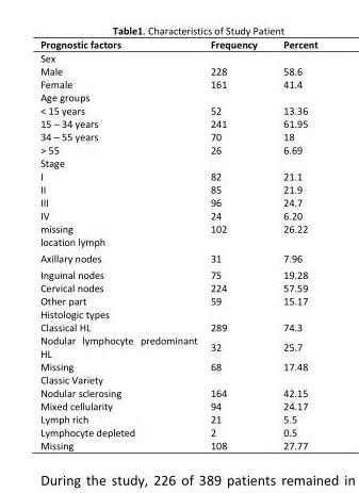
<table><thead><tr><td>Prognostic factors</td><td>Frequency</td><td>Percent</td></tr></thead><tbody><tr><td colspan="3">Sex</td></tr><tr><td>Male</td><td>228</td><td>58.6</td></tr><tr><td>Female</td><td>161</td><td>41.4</td></tr><tr><td colspan="3">Age groups</td></tr><tr><td>&lt; 15 years</td><td>52</td><td>13.36</td></tr><tr><td>15 – 34 years</td><td>241</td><td>61.95</td></tr><tr><td>34 – 55 years</td><td>70</td><td>18</td></tr><tr><td>&gt; 55</td><td>26</td><td>6.69</td></tr><tr><td colspan="3">Stage</td></tr><tr><td>I</td><td>82</td><td>21.1</td></tr><tr><td>II</td><td>85</td><td>21.9</td></tr><tr><td>III</td><td>96</td><td>24.7</td></tr><tr><td>IV</td><td>24</td><td>6.20</td></tr><tr><td>missing</td><td>102</td><td>26.22</td></tr><tr><td colspan="3">location lymph</td></tr><tr><td>Axillary nodes</td><td>31</td><td>7.96</td></tr><tr><td>Inguinal nodes</td><td>75</td><td>19.28</td></tr><tr><td>Cervical nodes</td><td>224</td><td>57.59</td></tr><tr><td>Other part</td><td>59</td><td>15.17</td></tr><tr><td colspan="3">Histologic types</td></tr><tr><td>Classical HL</td><td>289</td><td>74.3</td></tr><tr><td>Nodular lymphocyte predominant HL</td><td>32</td><td>25.7</td></tr><tr><td>Missing</td><td>68</td><td>17.48</td></tr><tr><td colspan="3">Classic Variety</td></tr><tr><td>Nodular sclerosing</td><td>164</td><td>42.15</td></tr><tr><td>Mixed cellularity</td><td>94</td><td>24.17</td></tr><tr><td>Lymph rich</td><td>21</td><td>5.5</td></tr><tr><td>Lymphocyte depleted</td><td>2</td><td>0.5</td></tr><tr><td>Missing</td><td>108</td><td>27.77</td></tr></tbody></table>